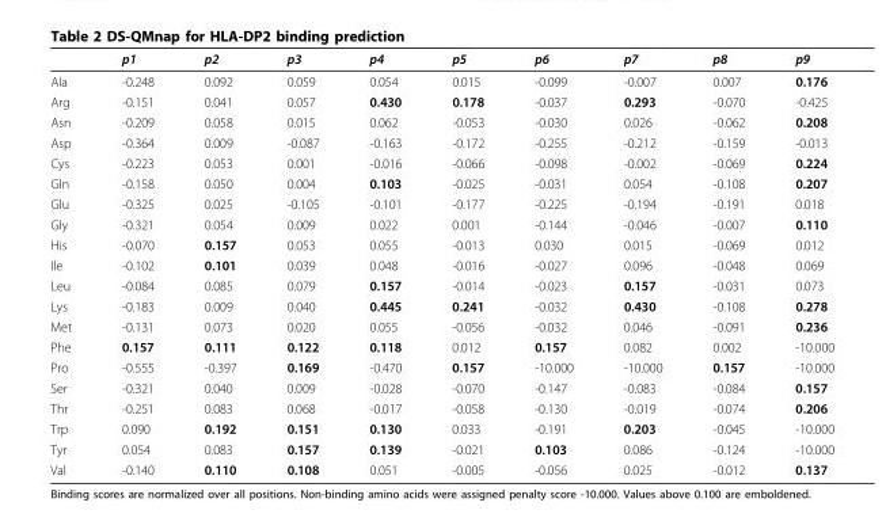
<table><thead><tr><td></td><td>p1</td><td>p2</td><td>p3</td><td>p4</td><td>p5</td><td>p6</td><td>p7</td><td>p8</td><td>p9</td></tr></thead><tbody><tr><td>Ala</td><td>-0.248</td><td>0.092</td><td>0.059</td><td>0.054</td><td>0.015</td><td>-0.099</td><td>-0.007</td><td>0.007</td><td>0.176</td></tr><tr><td>Arg</td><td>-0.151</td><td>0.041</td><td>0.057</td><td>0.430</td><td>0.178</td><td>-0.037</td><td>0.293</td><td>-0.070</td><td>-0.425</td></tr><tr><td>Asn</td><td>-0.209</td><td>0.058</td><td>0.015</td><td>0.062</td><td>-0.053</td><td>-0.030</td><td>0.026</td><td>-0.062</td><td>0.208</td></tr><tr><td>Asp</td><td>-0.364</td><td>0.009</td><td>-0.087</td><td>-0.163</td><td>-0.172</td><td>-0.255</td><td>-0.212</td><td>-0.159</td><td>-0.013</td></tr><tr><td>Cys</td><td>-0.223</td><td>0.053</td><td>0.001</td><td>-0.016</td><td>-0.066</td><td>-0.098</td><td>-0.002</td><td>-0.069</td><td>0.224</td></tr><tr><td>Gln</td><td>-0.158</td><td>0.050</td><td>0.004</td><td>0.103</td><td>-0.025</td><td>-0.031</td><td>0.054</td><td>-0.108</td><td>0.207</td></tr><tr><td>Glu</td><td>-0.325</td><td>0.025</td><td>-0.105</td><td>-0.101</td><td>-0.177</td><td>-0.225</td><td>-0.194</td><td>-0.191</td><td>0.018</td></tr><tr><td>Gly</td><td>-0.321</td><td>0.054</td><td>0.009</td><td>0.022</td><td>0.001</td><td>-0.144</td><td>-0.046</td><td>-0.007</td><td>0.110</td></tr><tr><td>His</td><td>-0.070</td><td>0.157</td><td>0.053</td><td>0.055</td><td>-0.013</td><td>0.030</td><td>0.015</td><td>-0.069</td><td>0.012</td></tr><tr><td>Ile</td><td>-0.102</td><td>0.101</td><td>0.039</td><td>0.048</td><td>-0.016</td><td>-0.027</td><td>0.096</td><td>-0.048</td><td>0.069</td></tr><tr><td>Leu</td><td>-0.084</td><td>0.085</td><td>0.079</td><td>0.157</td><td>-0.014</td><td>-0.023</td><td>0.157</td><td>-0.031</td><td>0.073</td></tr><tr><td>Lys</td><td>-0.183</td><td>0.009</td><td>0.040</td><td>0.445</td><td>0.241</td><td>-0.032</td><td>0.430</td><td>-0.108</td><td>0.278</td></tr><tr><td>Met</td><td>-0.131</td><td>0.073</td><td>0.020</td><td>0.055</td><td>-0.056</td><td>-0.032</td><td>0.046</td><td>-0.091</td><td>0.236</td></tr><tr><td>Phe</td><td>0.157</td><td>0.111</td><td>0.122</td><td>0.118</td><td>0.012</td><td>0.157</td><td>0.082</td><td>0.002</td><td>-10.000</td></tr><tr><td>Pro</td><td>-0.555</td><td>-0.397</td><td>0.169</td><td>-0.470</td><td>0.157</td><td>-10.000</td><td>-10.000</td><td>0.157</td><td>-10.000</td></tr><tr><td>Ser</td><td>-0.321</td><td>0.040</td><td>0.009</td><td>-0.028</td><td>-0.070</td><td>-0.147</td><td>-0.083</td><td>-0.084</td><td>0.157</td></tr><tr><td>Thr</td><td>-0.251</td><td>0.083</td><td>0.068</td><td>-0.017</td><td>-0.058</td><td>-0.130</td><td>-0.019</td><td>-0.074</td><td>0.206</td></tr><tr><td>Trp</td><td>0.090</td><td>0.192</td><td>0.151</td><td>0.130</td><td>0.033</td><td>-0.191</td><td>0.203</td><td>-0.045</td><td>-10.000</td></tr><tr><td>Tyr</td><td>0.054</td><td>0.083</td><td>0.157</td><td>0.139</td><td>-0.021</td><td>0.103</td><td>0.086</td><td>-0.124</td><td>-10.000</td></tr><tr><td>Val</td><td>-0.140</td><td>0.110</td><td>0.108</td><td>0.051</td><td>-0.005</td><td>-0.056</td><td>0.025</td><td>-0.012</td><td>0.137</td></tr></tbody></table>